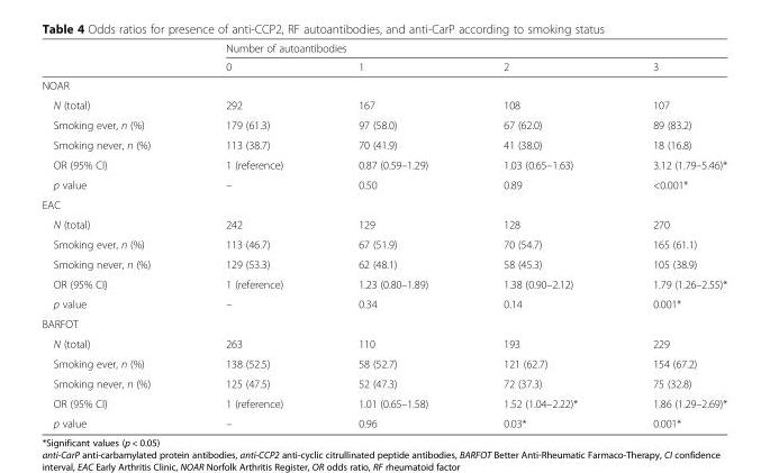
<table><thead><tr><td rowspan="2"></td><td colspan="4">Number of autoantibodies</td></tr><tr><td>0</td><td>1</td><td>2</td><td>3</td></tr></thead><tbody><tr><td colspan="5">NOAR</td></tr><tr><td>N (total)</td><td>292</td><td>167</td><td>108</td><td>107</td></tr><tr><td>Smoking ever, n (%)</td><td>179 (61.3)</td><td>97 (58.0)</td><td>67 (62.0)</td><td>89 (83.2)</td></tr><tr><td>Smoking never, n (%)</td><td>113 (38.7)</td><td>70 (41.9)</td><td>41 (38.0)</td><td>18 (16.8)</td></tr><tr><td>OR (95% CI)</td><td>1 (reference)</td><td>0.87 (0.59–1.29)</td><td>1.03 (0.65–1.63)</td><td>3.12 (1.79–5.46)*</td></tr><tr><td>p value</td><td>–</td><td>0.50</td><td>0.89</td><td>&lt;0.001*</td></tr><tr><td colspan="5">EAC</td></tr><tr><td>N (total)</td><td>242</td><td>129</td><td>128</td><td>270</td></tr><tr><td>Smoking ever, n (%)</td><td>113 (46.7)</td><td>67 (51.9)</td><td>70 (54.7)</td><td>165 (61.1)</td></tr><tr><td>Smoking never, n (%)</td><td>129 (53.3)</td><td>62 (48.1)</td><td>58 (45.3)</td><td>105 (38.9)</td></tr><tr><td>OR (95% CI)</td><td>1 (reference)</td><td>1.23 (0.80–1.89)</td><td>1.38 (0.90–2.12)</td><td>1.79 (1.26–2.55)*</td></tr><tr><td>p value</td><td>–</td><td>0.34</td><td>0.14</td><td>0.001*</td></tr><tr><td colspan="5">BARFOT</td></tr><tr><td>N (total)</td><td>263</td><td>110</td><td>193</td><td>229</td></tr><tr><td>Smoking ever, n (%)</td><td>138 (52.5)</td><td>58 (52.7)</td><td>121 (62.7)</td><td>154 (67.2)</td></tr><tr><td>Smoking never, n (%)</td><td>125 (47.5)</td><td>52 (47.3)</td><td>72 (37.3)</td><td>75 (32.8)</td></tr><tr><td>OR (95% CI)</td><td>1 (reference)</td><td>1.01 (0.65–1.58)</td><td>1.52 (1.04–2.22)*</td><td>1.86 (1.29–2.69)*</td></tr><tr><td>p value</td><td>–</td><td>0.96</td><td>0.03*</td><td>0.001*</td></tr></tbody></table>